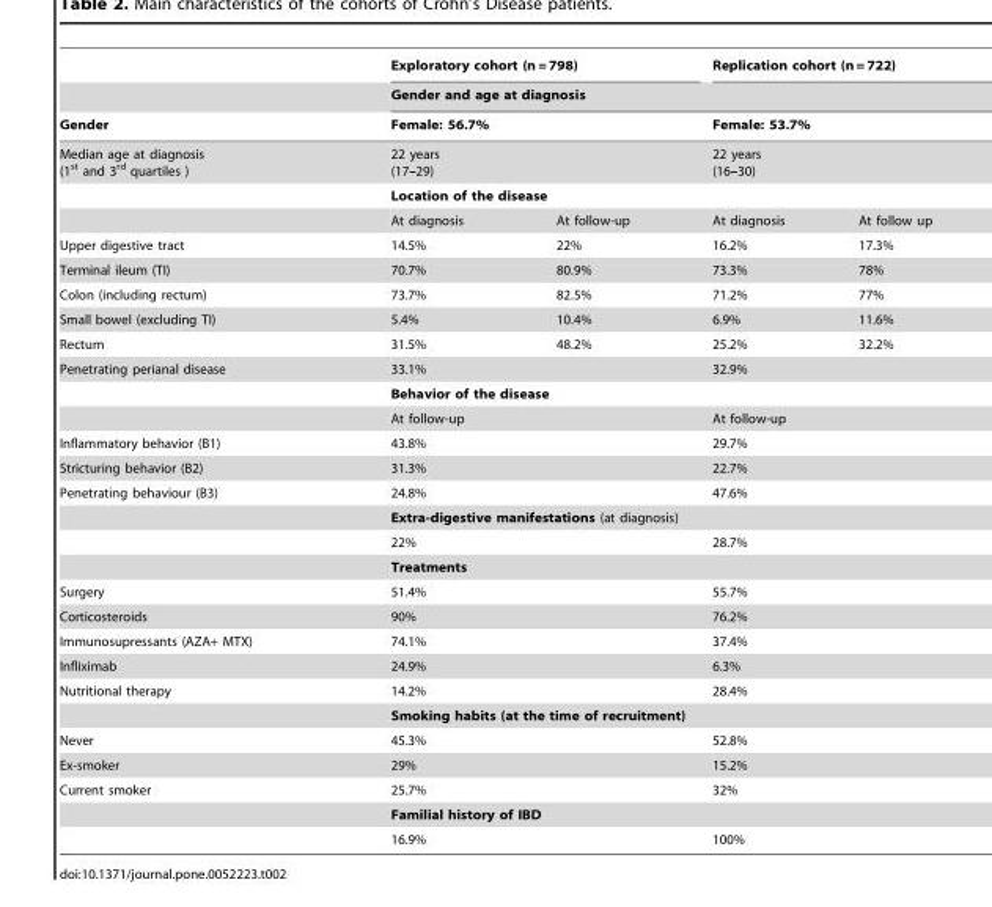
<table><thead><tr><td rowspan="6">Gender Median age at diagnosis (1<sup>st</sup> and 3<sup>rd</sup> quartiles )</td><td colspan="2">Exploratory cohort (n = 798)</td><td colspan="2">Replication cohort (n = 722)</td></tr><tr><td colspan="4">Gender and age at diagnosis</td></tr><tr><td rowspan="2" colspan="2">Female: 56.7% 22 years (17–29)</td><td rowspan="2" colspan="2">Female: 53.7% 22 years (16–30)</td></tr><tr></tr><tr><td colspan="4">Location of the disease</td></tr><tr><td>At diagnosis</td><td>At follow-up</td><td>At diagnosis</td><td>At follow up</td></tr></thead><tbody><tr><td>Upper digestive tract</td><td>14.5%</td><td>22%</td><td>16.2%</td><td>17.3%</td></tr><tr><td>Terminal ileum (TI)</td><td>70.7%</td><td>80.9%</td><td>73.3%</td><td>78%</td></tr><tr><td>Colon (including rectum)</td><td>73.7%</td><td>82.5%</td><td>71.2%</td><td>77%</td></tr><tr><td>Small bowel (excluding TI)</td><td>5.4%</td><td>10.4%</td><td>6.9%</td><td>11.6%</td></tr><tr><td>Rectum</td><td>31.5%</td><td>48.2%</td><td>25.2%</td><td>32.2%</td></tr><tr><td rowspan="3">Penetrating perianal disease</td><td colspan="2">33.1%</td><td colspan="2">32.9%</td></tr><tr><td colspan="4">Behavior of the disease</td></tr><tr><td colspan="2">At follow-up</td><td colspan="2">At follow-up</td></tr><tr><td>Inflammatory behavior (B1)</td><td colspan="2">43.8%</td><td colspan="2">29.7%</td></tr><tr><td>Stricturing behavior (B2)</td><td colspan="2">31.3%</td><td colspan="2">22.7%</td></tr><tr><td rowspan="4">Penetrating behaviour (B3)</td><td colspan="2">24.8%</td><td colspan="2">47.6%</td></tr><tr><td colspan="4">Extra-digestive manifestations (at diagnosis)</td></tr><tr><td colspan="2">22%</td><td colspan="2">28.7%</td></tr><tr><td colspan="4">Treatments</td></tr><tr><td>Surgery</td><td colspan="2">51.4%</td><td colspan="2">55.7%</td></tr><tr><td>Corticosteroids</td><td colspan="2">90%</td><td colspan="2">76.2%</td></tr><tr><td>Immunosupressants (AZA+ MTX)</td><td colspan="2">74.1%</td><td colspan="2">37.4%</td></tr><tr><td>Infliximab</td><td colspan="2">24.9%</td><td colspan="2">6.3%</td></tr><tr><td rowspan="2">Nutritional therapy</td><td colspan="2">14.2%</td><td colspan="2">28.4%</td></tr><tr><td colspan="4">Smoking habits (at the time of recruitment)</td></tr><tr><td>Never</td><td colspan="2">45.3%</td><td colspan="2">52.8%</td></tr><tr><td>Ex-smoker</td><td colspan="2">29%</td><td colspan="2">15.2%</td></tr><tr><td rowspan="3">Current smoker</td><td colspan="2">25.7%</td><td colspan="2">32%</td></tr><tr><td colspan="4">Familial history of IBD</td></tr><tr><td colspan="2">16.9%</td><td colspan="2">100%</td></tr></tbody></table>